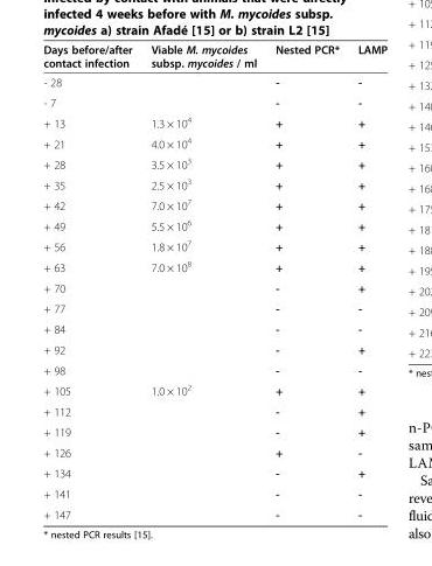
<table><thead><tr><td>Days before/after contact infection</td><td>Viable M. mycoides subsp. mycoides / ml</td><td>Nested PCR*</td><td>LAMP</td></tr></thead><tbody><tr><td>- 28</td><td></td><td>-</td><td>-</td></tr><tr><td>- 7</td><td></td><td>-</td><td>-</td></tr><tr><td>+ 13</td><td>1.3 × 10<sup>4</sup></td><td>+</td><td>+</td></tr><tr><td>+ 21</td><td>4.0 × 10<sup>4</sup></td><td>+</td><td>+</td></tr><tr><td>+ 28</td><td>3.5 × 10<sup>3</sup></td><td>+</td><td>+</td></tr><tr><td>+ 35</td><td>2.5 × 10<sup>3</sup></td><td>+</td><td>+</td></tr><tr><td>+ 42</td><td>7.0 × 10<sup>7</sup></td><td>+</td><td>+</td></tr><tr><td>+ 49</td><td>5.5 × 10<sup>6</sup></td><td>+</td><td>+</td></tr><tr><td>+ 56</td><td>1.8 × 10<sup>7</sup></td><td>+</td><td>+</td></tr><tr><td>+ 63</td><td>7.0 × 10<sup>8</sup></td><td>+</td><td>+</td></tr><tr><td>+ 70</td><td></td><td>-</td><td>+</td></tr><tr><td>+ 77</td><td></td><td>-</td><td>-</td></tr><tr><td>+ 84</td><td></td><td>-</td><td>-</td></tr><tr><td>+ 92</td><td></td><td>-</td><td>+</td></tr><tr><td>+ 98</td><td></td><td>-</td><td>-</td></tr><tr><td>+ 105</td><td>1.0 × 10<sup>2</sup></td><td>+</td><td>+</td></tr><tr><td>+ 112</td><td></td><td>-</td><td>+</td></tr><tr><td>+ 119</td><td></td><td>-</td><td>+</td></tr><tr><td>+ 126</td><td></td><td>+</td><td>-</td></tr><tr><td>+ 134</td><td></td><td>-</td><td>+</td></tr><tr><td>+ 141</td><td></td><td>-</td><td>-</td></tr><tr><td>+ 147</td><td></td><td>-</td><td>-</td></tr></tbody></table>